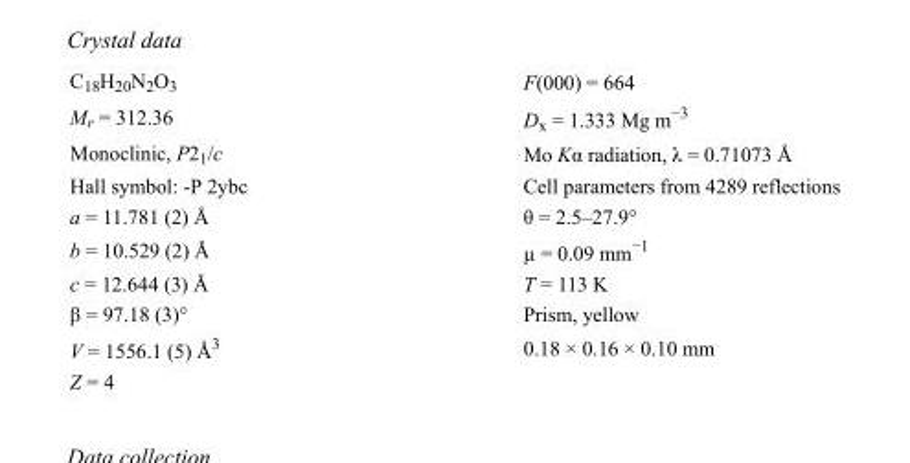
<table><tbody><tr><td>C<sub>18</sub>H<sub>20</sub>N<sub>2</sub>O<sub>3</sub></td><td>F(000) = 664</td></tr><tr><td>M<sub>r</sub> = 312.36</td><td>D<sub>x</sub> = 1.333 Mg m<sup>−3</sup></td></tr><tr><td>Monoclinic, P2<sub>1</sub>/c</td><td>Mo Kα radiation, λ = 0.71073 Å</td></tr><tr><td>Hall symbol: -P 2ybc</td><td>Cell parameters from 4289 reflections</td></tr><tr><td>a = 11.781 (2) Å</td><td>θ = 2.5–27.9°</td></tr><tr><td>b = 10.529 (2) Å</td><td>µ = 0.09 mm<sup>−1</sup></td></tr><tr><td>c = 12.644 (3) Å</td><td>T = 113 K</td></tr><tr><td>β = 97.18 (3)°</td><td>Prism, yellow</td></tr><tr><td>V = 1556.1 (5) Å<sup>3</sup></td><td>0.18 × 0.16 × 0.10 mm</td></tr><tr><td>Z = 4</td><td></td></tr></tbody></table>